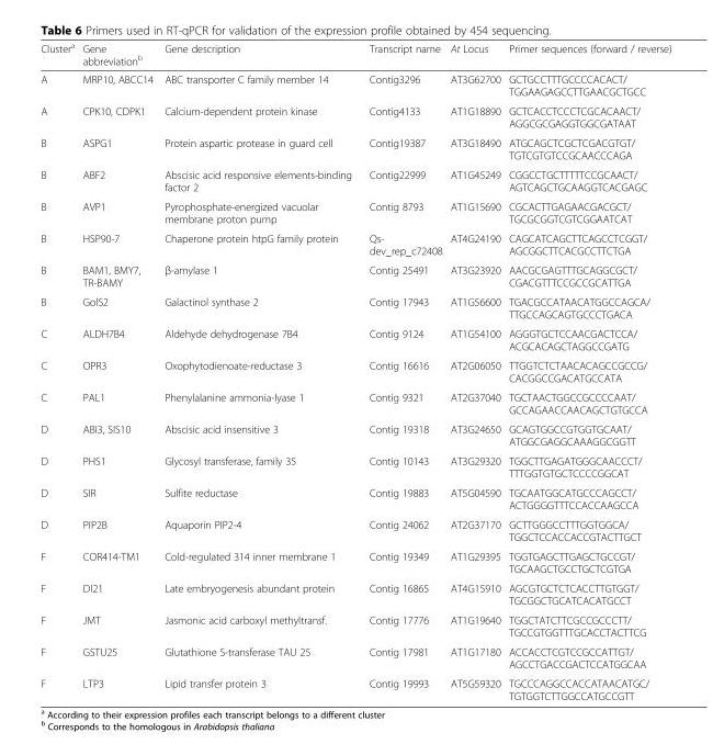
<table><thead><tr><td>Cluster<sup>a</sup></td><td>Gene abbreviation<sup>b</sup></td><td>Gene description</td><td>Transcript name</td><td>At Locus</td><td>Primer sequences (forward / reverse)</td></tr></thead><tbody><tr><td>A</td><td>MRP10, ABCC14</td><td>ABC transporter C family member 14</td><td>Contig3296</td><td>AT3G62700</td><td>GCTGCCTTTGCCCCACACT/ TGGAAGAGCCTTGAACGCTGCC</td></tr><tr><td>A</td><td>CPK10, CDPK1</td><td>Calcium-dependent protein kinase</td><td>Contig4133</td><td>AT1G18890</td><td>GCTCACCTCCCTCGCACAACT/ AGGCGCGAGGTGGCGATAAT</td></tr><tr><td>B</td><td>ASPG1</td><td>Protein aspartic protease in guard cell</td><td>Contig19387</td><td>AT3G18490</td><td>ATGCAGCTCGCTCGACGTGT/ TGTCGTGTCCGCAACCCAGA</td></tr><tr><td>B</td><td>ABF2</td><td>Abscisic acid responsive elements-binding factor 2</td><td>Contig22999</td><td>AT1G45249</td><td>CGGCCTGCTTTTTCCGCAACT/ AGTCAGCTGCAAGGTCACGAGC</td></tr><tr><td>B</td><td>AVP1</td><td>Pyrophosphate-energized vacuolar membrane proton pump</td><td>Contig 8793</td><td>AT1G15690</td><td>CGCACTTGAGAACGACGCT/ TGCGCGGTCGTCGGAATCAT</td></tr><tr><td>B</td><td>HSP90-7</td><td>Chaperone protein htpG family protein</td><td>Qs- dev_rep_c72408</td><td>AT4G24190</td><td>CAGCATCAGCTTCAGCCTCGGT/ AGCGGCTTCACGCCTTCTGA</td></tr><tr><td>B</td><td>BAM1, BMY7, TR-BAMY</td><td>β-amylase 1</td><td>Contig 25491</td><td>AT3G23920</td><td>AACGCGAGTTTGCAGGCGCT/ CGACGTTTCCGCCGCATTGA</td></tr><tr><td>B</td><td>GolS2</td><td>Galactinol synthase 2</td><td>Contig 17943</td><td>AT1G56600</td><td>TGACGCCATAACATGGCCAGCA/ TTGCCAGCAGTGCCCTGACA</td></tr><tr><td>C</td><td>ALDH7B4</td><td>Aldehyde dehydrogenase 7B4</td><td>Contig 9124</td><td>AT1G54100</td><td>AGGGTGCTCCAACGACTCCA/ ACGCACAGCTAGGCCGATG</td></tr><tr><td>C</td><td>OPR3</td><td>Oxophytodienoate-reductase 3</td><td>Contig 16616</td><td>AT2G06050</td><td>TTGGTCTCTAACACAGCCGCCG/ CACGGCCGACATGCCATA</td></tr><tr><td>C</td><td>PAL1</td><td>Phenylalanine ammonia-lyase 1</td><td>Contig 9321</td><td>AT2G37040</td><td>TGCTAACTGGCCGCCCCAAT/ GCCAGAACCAACAGCTGTGCCA</td></tr><tr><td>D</td><td>ABI3, SIS10</td><td>Abscisic acid insensitive 3</td><td>Contig 19318</td><td>AT3G24650</td><td>GCAGTGGCCGTGGTGCAAT/ ATGGCGAGGCAAAGGCGGTT</td></tr><tr><td>D</td><td>PHS1</td><td>Glycosyl transferase, family 35</td><td>Contig 10143</td><td>AT3G29320</td><td>TGGCTTGAGATGGGCAACCCT/ TTTGGTGTGCTCCCCGGCAT</td></tr><tr><td>D</td><td>SIR</td><td>Sulfite reductase</td><td>Contig 19883</td><td>AT5G04590</td><td>TGCAATGGCATGCCCAGCCT/ ACTGGGGTTTCCACCAAGCCA</td></tr><tr><td>D</td><td>PIP2B</td><td>Aquaporin PIP2-4</td><td>Contig 24062</td><td>AT2G37170</td><td>GCTTGGGCCTTTGGTGGCA/ TGGCTCCACCACCGTACTTGCT</td></tr><tr><td>F</td><td>COR414-TM1</td><td>Cold-regulated 314 inner membrane 1</td><td>Contig 19349</td><td>AT1G29395</td><td>TGGTGAGCTTGAGCTGCCGT/ TGCAAGCTGCCTGCTCGTGA</td></tr><tr><td>F</td><td>DI21</td><td>Late embryogenesis abundant protein</td><td>Contig 16865</td><td>AT4G15910</td><td>AGCGTGCTCTCACCTTGTGGT/ TGCGGCTGCATCACATGCCT</td></tr><tr><td>F</td><td>JMT</td><td>Jasmonic acid carboxyl methyltransf.</td><td>Contig 17776</td><td>AT1G19640</td><td>TGGCTATCTTCGCCGCCCTT/ TGCCGTGGTTTGCACCTACTTCG</td></tr><tr><td>F</td><td>GSTU25</td><td>Glutathione S-transferase TAU 25</td><td>Contig 17981</td><td>AT1G17180</td><td>ACCACCTCGTCCGCCATTGT/ AGCCTGACCGACTCCATGGCAA</td></tr><tr><td>F</td><td>LTP3</td><td>Lipid transfer protein 3</td><td>Contig 19993</td><td>AT5G59320</td><td>TGCCCAGGCCACCATAACATGC/ TGTGGTCTTGGCCATGCCGTT</td></tr></tbody></table>